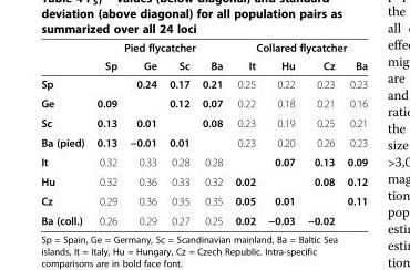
<table><thead><tr><td rowspan="2"></td><td colspan="4">Pied flycatcher</td><td colspan="4">Collared flycatcher</td></tr><tr><td>Sp</td><td>Ge</td><td>Sc</td><td>Ba</td><td>It</td><td>Hu</td><td>Cz</td><td>Ba</td></tr></thead><tbody><tr><td>Sp</td><td></td><td>0.24</td><td>0.17</td><td>0.21</td><td>0.25</td><td>0.22</td><td>0.23</td><td>0.23</td></tr><tr><td>Ge</td><td>0.09</td><td></td><td>0.12</td><td>0.07</td><td>0.22</td><td>0.18</td><td>0.21</td><td>0.16</td></tr><tr><td>Sc</td><td>0.13</td><td>0.01</td><td></td><td>0.08</td><td>0.23</td><td>0.19</td><td>0.25</td><td>0.21</td></tr><tr><td>Ba (pied)</td><td>0.13</td><td>−0.01</td><td>0.01</td><td></td><td>0.23</td><td>0.20</td><td>0.26</td><td>0.23</td></tr><tr><td>It</td><td>0.32</td><td>0.33</td><td>0.28</td><td>0.28</td><td></td><td>0.07</td><td>0.13</td><td>0.09</td></tr><tr><td>Hu</td><td>0.32</td><td>0.36</td><td>0.33</td><td>0.32</td><td>0.02</td><td></td><td>0.08</td><td>0.12</td></tr><tr><td>Cz</td><td>0.29</td><td>0.36</td><td>0.35</td><td>0.35</td><td>0.05</td><td>0.01</td><td></td><td>0.11</td></tr><tr><td>Ba (coll.)</td><td>0.26</td><td>0.29</td><td>0.27</td><td>0.25</td><td>0.02</td><td>−0.03</td><td>−0.02</td><td></td></tr></tbody></table>